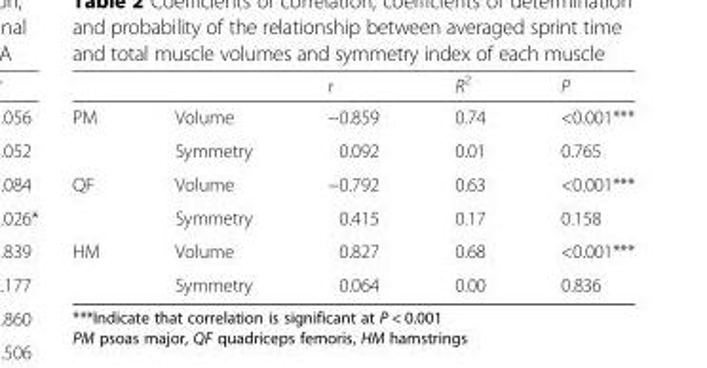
<table><thead><tr><td></td><td></td><td>r</td><td>R<sup>2</sup></td><td>P</td></tr></thead><tbody><tr><td rowspan="2">PM</td><td>Volume</td><td>−0.859</td><td>0.74</td><td>&lt;0.001***</td></tr><tr><td>Symmetry</td><td>0.092</td><td>0.01</td><td>0.765</td></tr><tr><td rowspan="2">QF</td><td>Volume</td><td>−0.792</td><td>0.63</td><td>&lt;0.001***</td></tr><tr><td>Symmetry</td><td>0.415</td><td>0.17</td><td>0.158</td></tr><tr><td rowspan="2">HM</td><td>Volume</td><td>0.827</td><td>0.68</td><td>&lt;0.001***</td></tr><tr><td>Symmetry</td><td>0.064</td><td>0.00</td><td>0.836</td></tr></tbody></table>